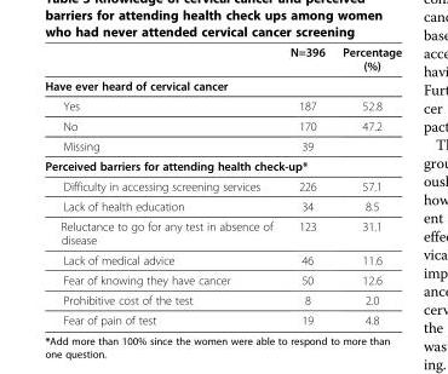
<table><thead><tr><td></td><td>N=396</td><td>Percentage (%)</td></tr></thead><tbody><tr><td colspan="3">Have ever heard of cervical cancer</td></tr><tr><td>Yes</td><td>187</td><td>52.8</td></tr><tr><td>No</td><td>170</td><td>47.2</td></tr><tr><td>Missing</td><td>39</td><td></td></tr><tr><td colspan="3">Perceived barriers for attending health check-up*</td></tr><tr><td>Difficulty in accessing screening services</td><td>226</td><td>57.1</td></tr><tr><td>Lack of health education</td><td>34</td><td>8.5</td></tr><tr><td>Reluctance to go for any test in absence of disease</td><td>123</td><td>31.1</td></tr><tr><td>Lack of medical advice</td><td>46</td><td>11.6</td></tr><tr><td>Fear of knowing they have cancer</td><td>50</td><td>12.6</td></tr><tr><td>Prohibitive cost of the test</td><td>8</td><td>2.0</td></tr><tr><td>Fear of pain of test</td><td>19</td><td>4.8</td></tr></tbody></table>